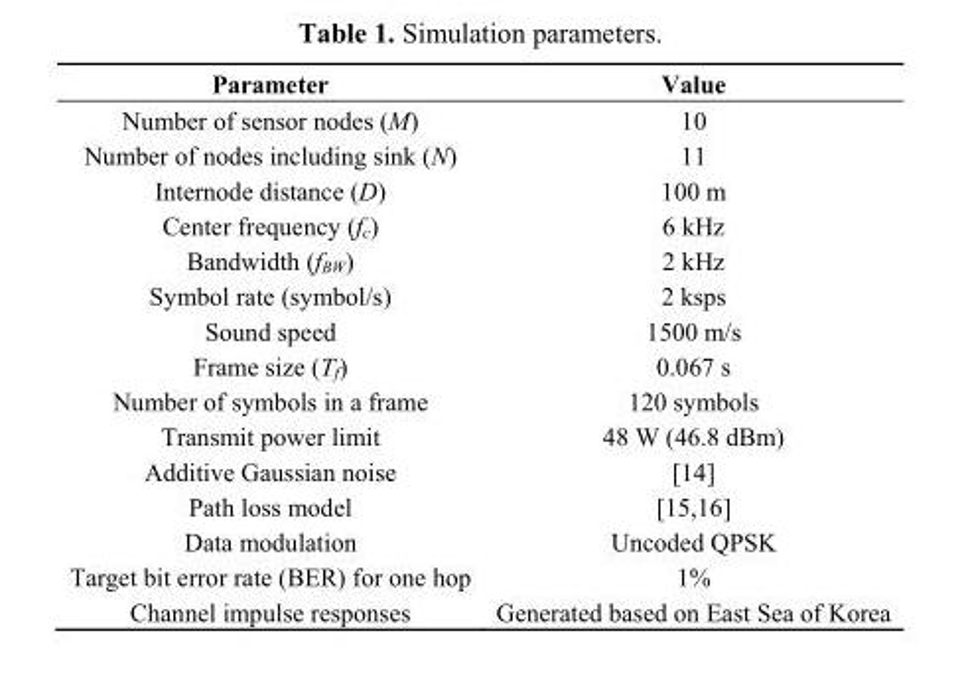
<table><thead><tr><td>Parameter</td><td>Value</td></tr></thead><tbody><tr><td>Number of sensor nodes (M)</td><td>10</td></tr><tr><td>Number of nodes including sink (N)</td><td>11</td></tr><tr><td>Internode distance (D)</td><td>100 m</td></tr><tr><td>Center frequency (f<sub>c</sub>)</td><td>6 kHz</td></tr><tr><td>Bandwidth (f<sub>BW</sub>)</td><td>2 kHz</td></tr><tr><td>Symbol rate (symbol/s)</td><td>2 ksps</td></tr><tr><td>Sound speed</td><td>1500 m/s</td></tr><tr><td>Frame size (T<sub>f</sub>)</td><td>0.067 s</td></tr><tr><td>Number of symbols in a frame</td><td>120 symbols</td></tr><tr><td>Transmit power limit</td><td>48 W (46.8 dBm)</td></tr><tr><td>Additive Gaussian noise</td><td>[14]</td></tr><tr><td>Path loss model</td><td>[15,16]</td></tr><tr><td>Data modulation</td><td>Uncoded QPSK</td></tr><tr><td>Target bit error rate (BER) for one hop</td><td>1%</td></tr><tr><td>Channel impulse responses</td><td>Generated based on East Sea of Korea</td></tr></tbody></table>